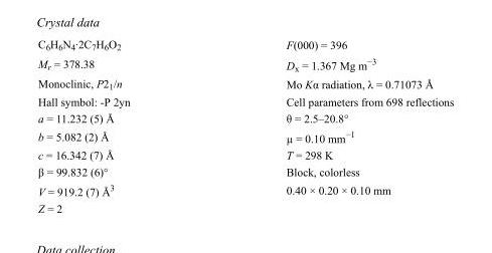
<table><tbody><tr><td>C<sub>6</sub>H<sub>6</sub>N<sub>4</sub>·2C<sub>7</sub>H<sub>6</sub>O<sub>2</sub></td><td>F(000) = 396</td></tr><tr><td>M<sub>r</sub> = 378.38</td><td>D<sub>x</sub> = 1.367 Mg m<sup>−3</sup></td></tr><tr><td>Monoclinic, P2<sub>1</sub>/n</td><td>Mo Kα radiation, λ = 0.71073 Å</td></tr><tr><td>Hall symbol: -P 2yn</td><td>Cell parameters from 698 reflections</td></tr><tr><td>a = 11.232 (5) Å</td><td>θ = 2.5–20.8°</td></tr><tr><td>b = 5.082 (2) Å</td><td>µ = 0.10 mm<sup>−1</sup></td></tr><tr><td>c = 16.342 (7) Å</td><td>T = 298 K</td></tr><tr><td>β = 99.832 (6)°</td><td>Block, colorless</td></tr><tr><td>V = 919.2 (7) Å<sup>3</sup></td><td>0.40 × 0.20 × 0.10 mm</td></tr><tr><td>Z = 2</td><td></td></tr></tbody></table>